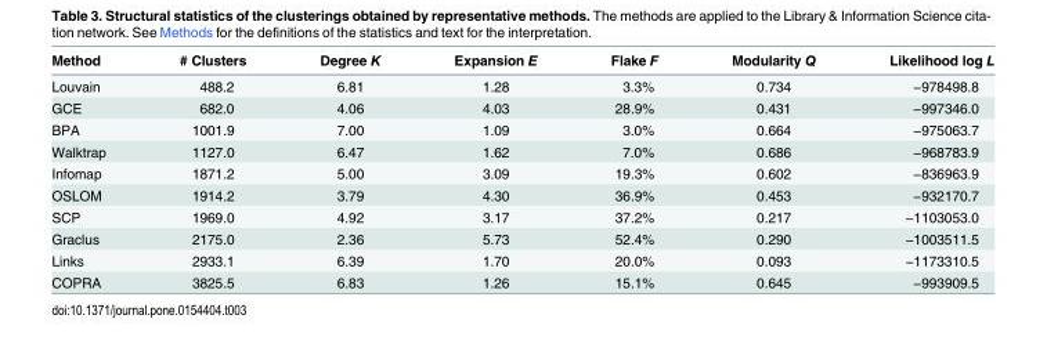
<table><thead><tr><td>Method</td><td># Clusters</td><td>Degree K</td><td>Expansion E</td><td>Flake F</td><td>Modularity Q</td><td>Likelihood log L</td></tr></thead><tbody><tr><td>Louvain</td><td>488.2</td><td>6.81</td><td>1.28</td><td>3.3%</td><td>0.734</td><td>−978498.8</td></tr><tr><td>GCE</td><td>682.0</td><td>4.06</td><td>4.03</td><td>28.9%</td><td>0.431</td><td>−997346.0</td></tr><tr><td>BPA</td><td>1001.9</td><td>7.00</td><td>1.09</td><td>3.0%</td><td>0.664</td><td>−975063.7</td></tr><tr><td>Walktrap</td><td>1127.0</td><td>6.47</td><td>1.62</td><td>7.0%</td><td>0.686</td><td>−968783.9</td></tr><tr><td>Infomap</td><td>1871.2</td><td>5.00</td><td>3.09</td><td>19.3%</td><td>0.602</td><td>−836963.9</td></tr><tr><td>OSLOM</td><td>1914.2</td><td>3.79</td><td>4.30</td><td>36.9%</td><td>0.453</td><td>−932170.7</td></tr><tr><td>SCP</td><td>1969.0</td><td>4.92</td><td>3.17</td><td>37.2%</td><td>0.217</td><td>−1103053.0</td></tr><tr><td>Graclus</td><td>2175.0</td><td>2.36</td><td>5.73</td><td>52.4%</td><td>0.290</td><td>−1003511.5</td></tr><tr><td>Links</td><td>2933.1</td><td>6.39</td><td>1.70</td><td>20.0%</td><td>0.093</td><td>−1173310.5</td></tr><tr><td>COPRA</td><td>3825.5</td><td>6.83</td><td>1.26</td><td>15.1%</td><td>0.645</td><td>−993909.5</td></tr></tbody></table>